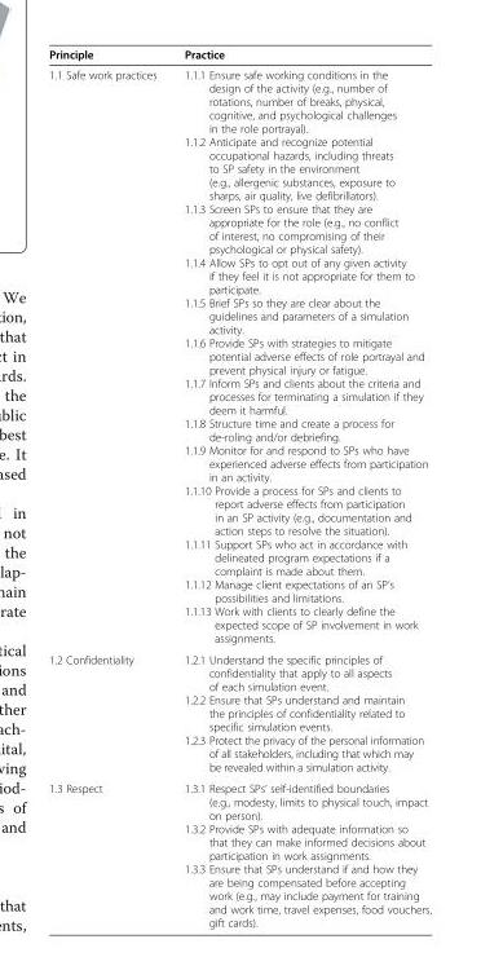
<table><thead><tr><td>Principle</td><td>Practice</td></tr></thead><tbody><tr><td>1.1 Safe work practices</td><td>1.1.1 Ensure safe working conditions in the design of the activity (e.g., number of rotations, number of breaks, physical, cognitive, and psychological challenges in the role portrayal). 1.1.2 Anticipate and recognize potential occupational hazards, including threats to SP safety in the environment (e.g., allergenic substances, exposure to sharps, air quality, live defibrillators). 1.1.3 Screen SPs to ensure that they are appropriate for the role (e.g., no conflict of interest, no compromising of their psychological or physical safety). 1.1.4 Allow SPs to opt out of any given activity if they feel it is not appropriate for them to participate. 1.1.5 Brief SPs so they are clear about the guidelines and parameters of a simulation activity. 1.1.6 Provide SPs with strategies to mitigate potential adverse effects of role portrayal and prevent physical injury or fatigue. 1.1.7 Inform SPs and clients about the criteria and processes for terminating a simulation if they deem it harmful. 1.1.8 Structure time and create a process for de-roling and/or debriefing. 1.1.9 Monitor for and respond to SPs who have experienced adverse effects from participation in an activity. 1.1.10 Provide a process for SPs and clients to report adverse effects from participation in an SP activity (e.g., documentation and action steps to resolve the situation). 1.1.11 Support SPs who act in accordance with delineated program expectations if a complaint is made about them. 1.1.12 Manage client expectations of an SP’s possibilities and limitations. 1.1.13 Work with clients to clearly define the expected scope of SP involvement in work assignments.</td></tr><tr><td>1.2 Confidentiality</td><td>1.2.1 Understand the specific principles of confidentiality that apply to all aspects of each simulation event. 1.2.2 Ensure that SPs understand and maintain the principles of confidentiality related to specific simulation events. 1.2.3 Protect the privacy of the personal information of all stakeholders, including that which may be revealed within a simulation activity.</td></tr><tr><td>1.3 Respect</td><td>1.3.1 Respect SPs’ self-identified boundaries (e.g., modesty, limits to physical touch, impact on person). 1.3.2 Provide SPs with adequate information so that they can make informed decisions about participation in work assignments. 1.3.3 Ensure that SPs understand if and how they are being compensated before accepting work (e.g., may include payment for training and work time, travel expenses, food vouchers, gift cards).</td></tr></tbody></table>